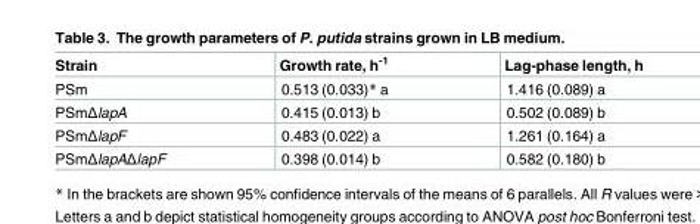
<table><thead><tr><td>Strain</td><td>Growth rate, h<sup>-1</sup></td><td>Lag-phase length, h</td></tr></thead><tbody><tr><td>PSm</td><td>0.513 (0.033)* a</td><td>1.416 (0.089) a</td></tr><tr><td>PSmΔlapA</td><td>0.415 (0.013) b</td><td>0.502 (0.089) b</td></tr><tr><td>PSmΔlapF</td><td>0.483 (0.022) a</td><td>1.261 (0.164) a</td></tr><tr><td>PSmΔlapAΔlapF</td><td>0.398 (0.014) b</td><td>0.582 (0.180) b</td></tr></tbody></table>